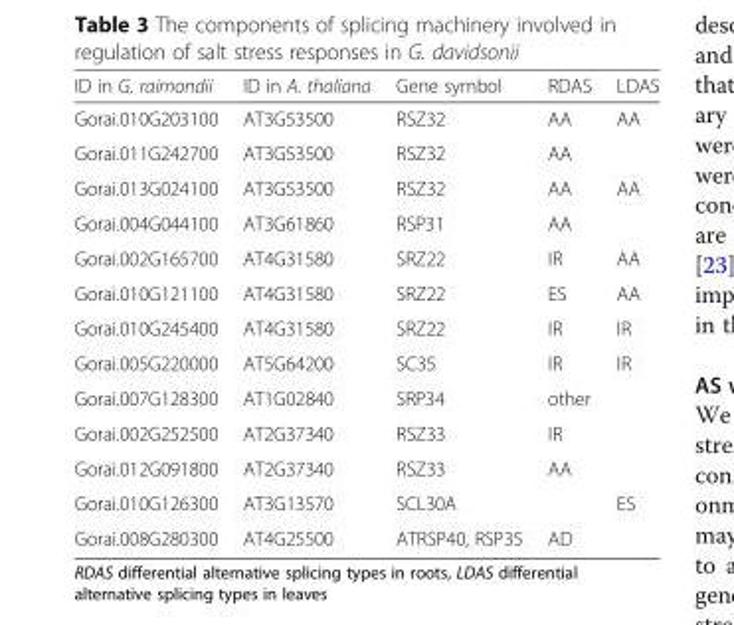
<table><thead><tr><td>ID in G. raimondii</td><td>ID in A. thaliana</td><td>Gene symbol</td><td>RDAS</td><td>LDAS</td></tr></thead><tbody><tr><td>Gorai.010G203100</td><td>AT3G53500</td><td>RSZ32</td><td>AA</td><td>AA</td></tr><tr><td>Gorai.011G242700</td><td>AT3G53500</td><td>RSZ32</td><td>AA</td><td></td></tr><tr><td>Gorai.013G024100</td><td>AT3G53500</td><td>RSZ32</td><td>AA</td><td>AA</td></tr><tr><td>Gorai.004G044100</td><td>AT3G61860</td><td>RSP31</td><td>AA</td><td></td></tr><tr><td>Gorai.002G165700</td><td>AT4G31580</td><td>SRZ22</td><td>IR</td><td>AA</td></tr><tr><td>Gorai.010G121100</td><td>AT4G31580</td><td>SRZ22</td><td>ES</td><td>AA</td></tr><tr><td>Gorai.010G245400</td><td>AT4G31580</td><td>SRZ22</td><td>IR</td><td>IR</td></tr><tr><td>Gorai.005G220000</td><td>AT5G64200</td><td>SC35</td><td>IR</td><td>IR</td></tr><tr><td>Gorai.007G128300</td><td>AT1G02840</td><td>SRP34</td><td>other</td><td></td></tr><tr><td>Gorai.002G252500</td><td>AT2G37340</td><td>RSZ33</td><td>IR</td><td></td></tr><tr><td>Gorai.012G091800</td><td>AT2G37340</td><td>RSZ33</td><td>AA</td><td></td></tr><tr><td>Gorai.010G126300</td><td>AT3G13570</td><td>SCL30A</td><td></td><td>ES</td></tr><tr><td>Gorai.008G280300</td><td>AT4G25500</td><td>ATRSP40, RSP35</td><td>AD</td><td></td></tr></tbody></table>